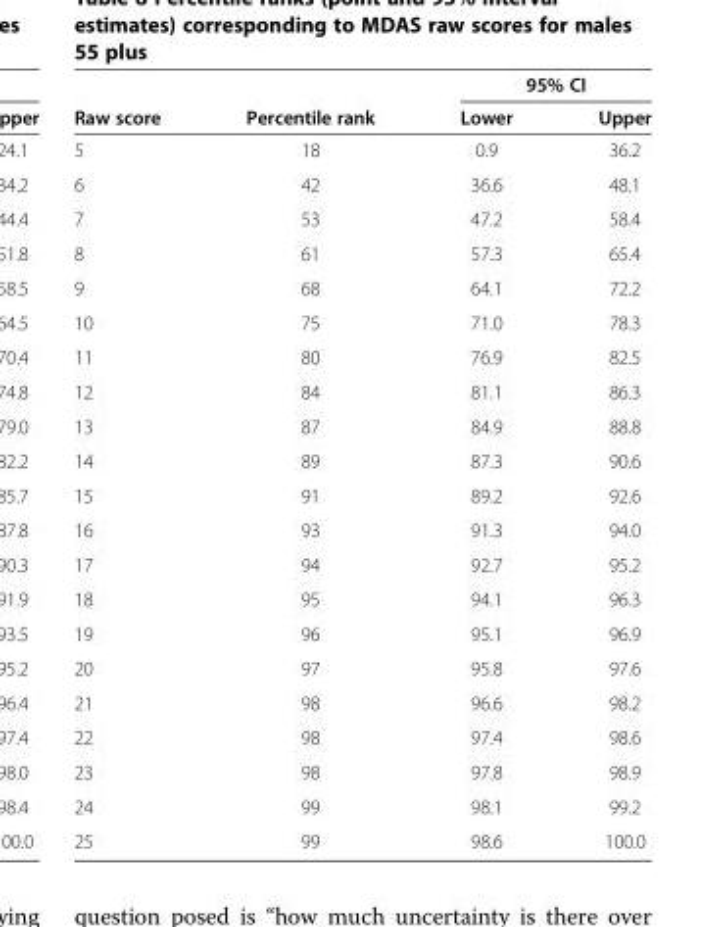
<table><thead><tr><td rowspan="2">Raw score</td><td rowspan="2">Percentile rank</td><td colspan="2">95% CI</td></tr><tr><td>Lower</td><td>Upper</td></tr></thead><tbody><tr><td>5</td><td>18</td><td>0.9</td><td>36.2</td></tr><tr><td>6</td><td>42</td><td>36.6</td><td>48.1</td></tr><tr><td>7</td><td>53</td><td>47.2</td><td>58.4</td></tr><tr><td>8</td><td>61</td><td>57.3</td><td>65.4</td></tr><tr><td>9</td><td>68</td><td>64.1</td><td>72.2</td></tr><tr><td>10</td><td>75</td><td>71.0</td><td>78.3</td></tr><tr><td>11</td><td>80</td><td>76.9</td><td>82.5</td></tr><tr><td>12</td><td>84</td><td>81.1</td><td>86.3</td></tr><tr><td>13</td><td>87</td><td>84.9</td><td>88.8</td></tr><tr><td>14</td><td>89</td><td>87.3</td><td>90.6</td></tr><tr><td>15</td><td>91</td><td>89.2</td><td>92.6</td></tr><tr><td>16</td><td>93</td><td>91.3</td><td>94.0</td></tr><tr><td>17</td><td>94</td><td>92.7</td><td>95.2</td></tr><tr><td>18</td><td>95</td><td>94.1</td><td>96.3</td></tr><tr><td>19</td><td>96</td><td>95.1</td><td>96.9</td></tr><tr><td>20</td><td>97</td><td>95.8</td><td>97.6</td></tr><tr><td>21</td><td>98</td><td>96.6</td><td>98.2</td></tr><tr><td>22</td><td>98</td><td>97.4</td><td>98.6</td></tr><tr><td>23</td><td>98</td><td>97.8</td><td>98.9</td></tr><tr><td>24</td><td>99</td><td>98.1</td><td>99.2</td></tr><tr><td>25</td><td>99</td><td>98.6</td><td>100.0</td></tr></tbody></table>